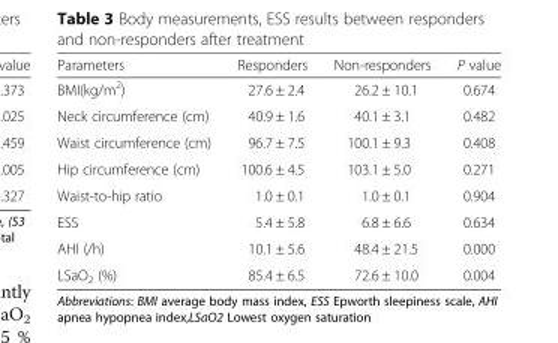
<table><thead><tr><td>Parameters</td><td>Responders</td><td>Non-responders</td><td>P value</td></tr></thead><tbody><tr><td>BMI(kg/m<sup>2</sup>)</td><td>27.6 ± 2.4</td><td>26.2 ± 10.1</td><td>0.674</td></tr><tr><td>Neck circumference (cm)</td><td>40.9 ± 1.6</td><td>40.1 ± 3.1</td><td>0.482</td></tr><tr><td>Waist circumference (cm)</td><td>96.7 ± 7.5</td><td>100.1 ± 9.3</td><td>0.408</td></tr><tr><td>Hip circumference (cm)</td><td>100.6 ± 4.5</td><td>103.1 ± 5.0</td><td>0.271</td></tr><tr><td>Waist-to-hip ratio</td><td>1.0 ± 0.1</td><td>1.0 ± 0.1</td><td>0.904</td></tr><tr><td>ESS</td><td>5.4 ± 5.8</td><td>6.8 ± 6.6</td><td>0.634</td></tr><tr><td>AHI (/h)</td><td>10.1 ± 5.6</td><td>48.4 ± 21.5</td><td>0.000</td></tr><tr><td>LSaO<sub>2</sub> (%)</td><td>85.4 ± 6.5</td><td>72.6 ± 10.0</td><td>0.004</td></tr></tbody></table>